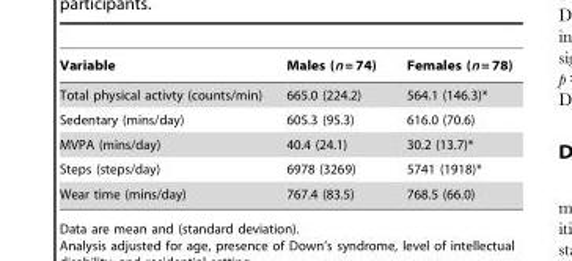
<table><thead><tr><td>Variable</td><td>Males (n = 74)</td><td>Females (n = 78)</td></tr></thead><tbody><tr><td>Total physical activty (counts/min)</td><td>665.0 (224.2)</td><td>564.1 (146.3)*</td></tr><tr><td>Sedentary (mins/day)</td><td>605.3 (95.3)</td><td>616.0 (70.6)</td></tr><tr><td>MVPA (mins/day)</td><td>40.4 (24.1)</td><td>30.2 (13.7)*</td></tr><tr><td>Steps (steps/day)</td><td>6978 (3269)</td><td>5741 (1918)*</td></tr><tr><td>Wear time (mins/day)</td><td>767.4 (83.5)</td><td>768.5 (66.0)</td></tr></tbody></table>